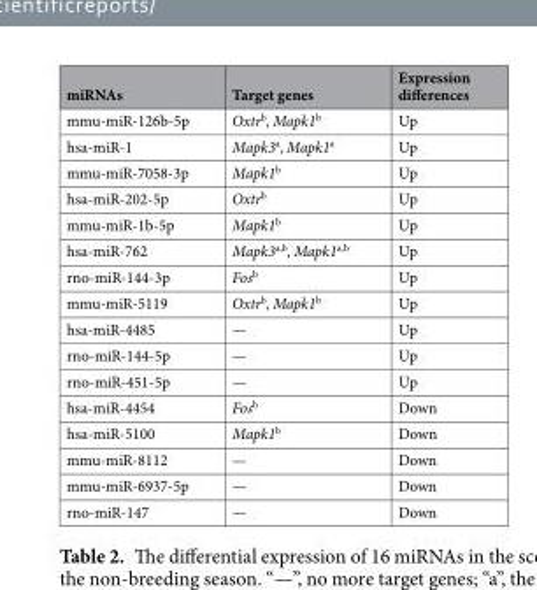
<table><thead><tr><td>miRNAs</td><td>Target genes</td><td>Expression differences</td></tr></thead><tbody><tr><td>mmu-miR-126b-5p</td><td>Oxtr<sup>b</sup>, Mapk1<sup>b</sup></td><td>Up</td></tr><tr><td>hsa-miR-1</td><td>Mapk3<sup>a</sup>, Mapk1<sup>a</sup></td><td>Up</td></tr><tr><td>mmu-miR-7058-3p</td><td>Mapk1<sup>b</sup></td><td>Up</td></tr><tr><td>hsa-miR-202-5p</td><td>Oxtr<sup>b</sup></td><td>Up</td></tr><tr><td>mmu-miR-1b-5p</td><td>Mapk1<sup>b</sup></td><td>Up</td></tr><tr><td>hsa-miR-762</td><td>Mapk3<sup>a,b</sup>, Mapk1<sup>a,b</sup></td><td>Up</td></tr><tr><td>rno-miR-144-3p</td><td>Fos<sup>b</sup></td><td>Up</td></tr><tr><td>mmu-miR-5119</td><td>Oxtr<sup>b</sup>, Mapk1<sup>b</sup></td><td>Up</td></tr><tr><td>hsa-miR-4485</td><td>—</td><td>Up</td></tr><tr><td>rno-miR-144-5p</td><td>—</td><td>Up</td></tr><tr><td>rno-miR-451-5p</td><td>—</td><td>Up</td></tr><tr><td>hsa-miR-4454</td><td>Fos<sup>b</sup></td><td>Down</td></tr><tr><td>hsa-miR-5100</td><td>Mapk1<sup>b</sup></td><td>Down</td></tr><tr><td>mmu-miR-8112</td><td>—</td><td>Down</td></tr><tr><td>mmu-miR-6937-5p</td><td>—</td><td>Down</td></tr><tr><td>rno-miR-147</td><td>—</td><td>Down</td></tr></tbody></table>